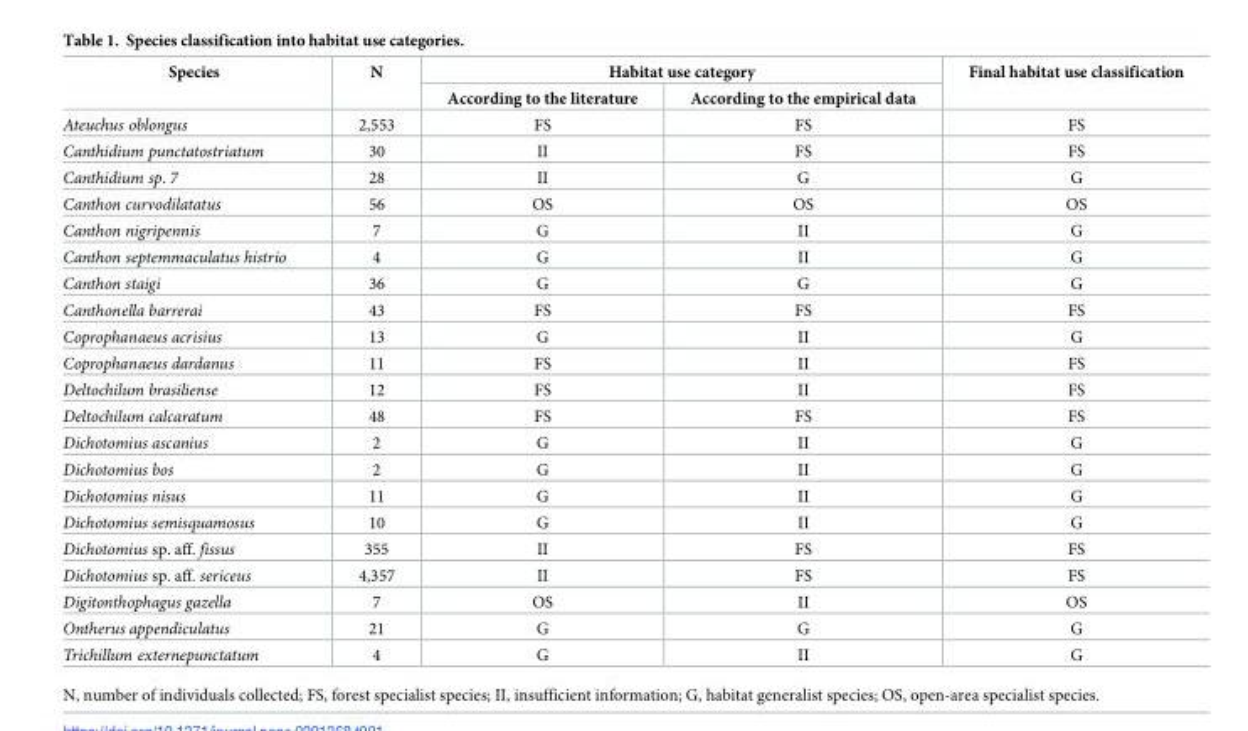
<table><thead><tr><td rowspan="2">Species</td><td rowspan="2">N</td><td colspan="2">Habitat use category</td><td rowspan="2">Final habitat use classification</td></tr><tr><td>According to the literature</td><td>According to the empirical data</td></tr></thead><tbody><tr><td>Ateuchus oblongus</td><td>2,553</td><td>FS</td><td>FS</td><td>FS</td></tr><tr><td>Canthidium punctatostriatum</td><td>30</td><td>II</td><td>FS</td><td>FS</td></tr><tr><td>Canthidium sp. 7</td><td>28</td><td>II</td><td>G</td><td>G</td></tr><tr><td>Canthon curvodilatatus</td><td>56</td><td>OS</td><td>OS</td><td>OS</td></tr><tr><td>Canthon nigripennis</td><td>7</td><td>G</td><td>II</td><td>G</td></tr><tr><td>Canthon septemmaculatus histrio</td><td>4</td><td>G</td><td>II</td><td>G</td></tr><tr><td>Canthon staigi</td><td>36</td><td>G</td><td>G</td><td>G</td></tr><tr><td>Canthonella barrerai</td><td>43</td><td>FS</td><td>FS</td><td>FS</td></tr><tr><td>Coprophanaeus acrisius</td><td>13</td><td>G</td><td>II</td><td>G</td></tr><tr><td>Coprophanaeus dardanus</td><td>11</td><td>FS</td><td>II</td><td>FS</td></tr><tr><td>Deltochilum brasiliense</td><td>12</td><td>FS</td><td>II</td><td>FS</td></tr><tr><td>Deltochilum calcaratum</td><td>48</td><td>FS</td><td>FS</td><td>FS</td></tr><tr><td>Dichotomius ascanius</td><td>2</td><td>G</td><td>II</td><td>G</td></tr><tr><td>Dichotomius bos</td><td>2</td><td>G</td><td>II</td><td>G</td></tr><tr><td>Dichotomius nisus</td><td>11</td><td>G</td><td>II</td><td>G</td></tr><tr><td>Dichotomius semisquamosus</td><td>10</td><td>G</td><td>II</td><td>G</td></tr><tr><td>Dichotomius sp. aff. fissus</td><td>355</td><td>II</td><td>FS</td><td>FS</td></tr><tr><td>Dichotomius sp. aff. sericeus</td><td>4,357</td><td>II</td><td>FS</td><td>FS</td></tr><tr><td>Digitonthophagus gazella</td><td>7</td><td>OS</td><td>II</td><td>OS</td></tr><tr><td>Ontherus appendiculatus</td><td>21</td><td>G</td><td>G</td><td>G</td></tr><tr><td>Trichillum externepunctatum</td><td>4</td><td>G</td><td>II</td><td>G</td></tr></tbody></table>